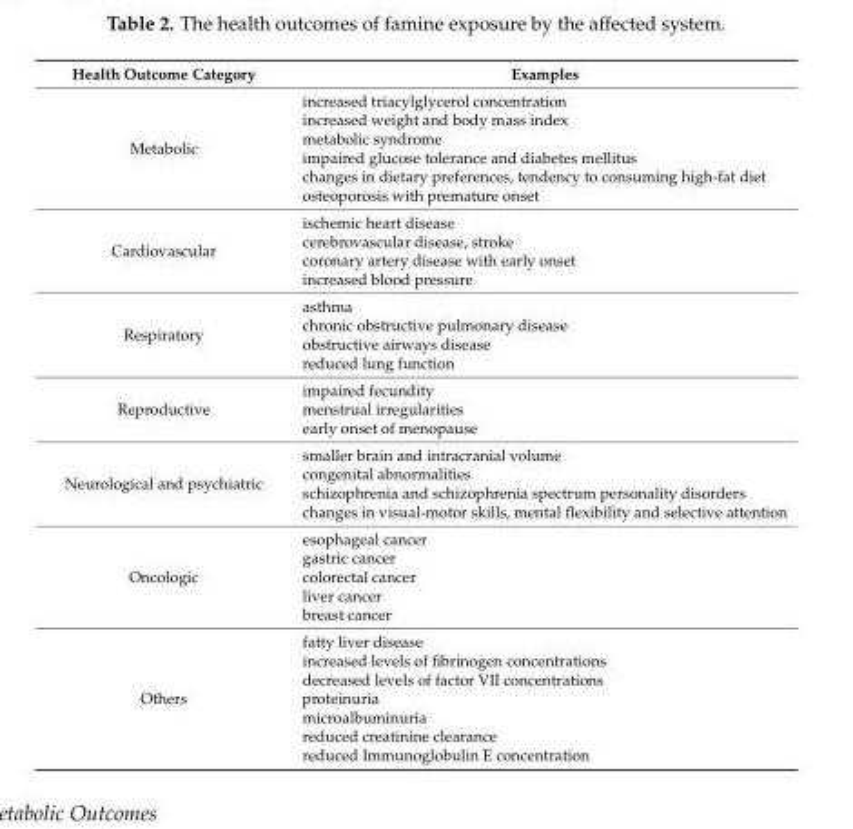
<table><thead><tr><td>Health Outcome Category</td><td>Examples</td></tr></thead><tbody><tr><td>Metabolic</td><td>increased triacylglycerol concentration increased weight and body mass index metabolic syndrome impaired glucose tolerance and diabetes mellitus changes in dietary preferences, tendency to consuming high-fat diet osteoporosis with premature onset</td></tr><tr><td>Cardiovascular</td><td>ischemic heart disease cerebrovascular disease, stroke coronary artery disease with early onset increased blood pressure</td></tr><tr><td>Respiratory</td><td>asthma chronic obstructive pulmonary disease obstructive airways disease reduced lung function</td></tr><tr><td>Reproductive</td><td>impaired fecundity menstrual irregularities early onset of menopause</td></tr><tr><td>Neurological and psychiatric</td><td>smaller brain and intracranial volume congenital abnormalities schizophrenia and schizophrenia spectrum personality disorders changes in visual-motor skills, mental flexibility and selective attention</td></tr><tr><td>Oncologic</td><td>esophageal cancer gastric cancer colorectal cancer liver cancer breast cancer</td></tr><tr><td>Others</td><td>fatty liver disease increased levels of fibrinogen concentrations decreased levels of factor VII concentrations proteinuria microalbuminuria reduced creatinine clearance reduced Immunoglobulin E concentration</td></tr></tbody></table>